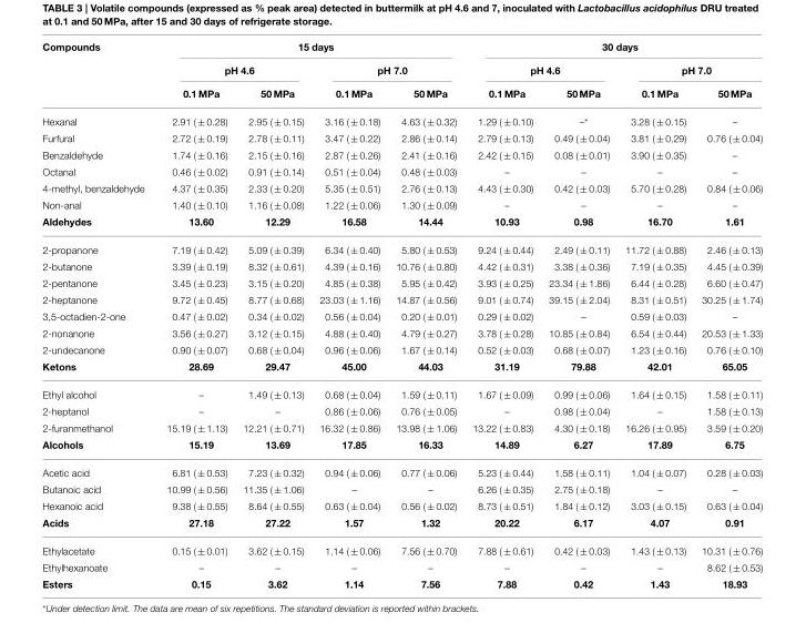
<table><thead><tr><td rowspan="3">Compounds</td><td colspan="4">15 days</td><td colspan="4">30 days</td></tr><tr><td colspan="2">pH 4.6</td><td colspan="2">pH 7.0</td><td colspan="2">pH 4.6</td><td colspan="2">pH 7.0</td></tr><tr><td>0.1 MPa</td><td>50 MPa</td><td>0.1 MPa</td><td>50 MPa</td><td>0.1 MPa</td><td>50 MPa</td><td>0.1 MPa</td><td>50 MPa</td></tr></thead><tbody><tr><td>Hexanal</td><td>2.91 ( ± 0.28)</td><td>2.95 ( ± 0.15)</td><td>3.16 ( ± 0.18)</td><td>4.63 ( ± 0.32)</td><td>1.29 ( ± 0.10)</td><td>–*</td><td>3.28 ( ± 0.15)</td><td>–</td></tr><tr><td>Furfural</td><td>2.72 ( ± 0.19)</td><td>2.78 ( ± 0.11)</td><td>3.47 ( ± 0.22)</td><td>2.86 ( ± 0.14)</td><td>2.79 ( ± 0.13)</td><td>0.49 ( ± 0.04)</td><td>3.81 ( ± 0.29)</td><td>0.76 ( ± 0.04)</td></tr><tr><td>Benzaldehyde</td><td>1.74 ( ± 0.16)</td><td>2.15 ( ± 0.16)</td><td>2.87 ( ± 0.26)</td><td>2.41 ( ± 0.16)</td><td>2.42 ( ± 0.15)</td><td>0.08 ( ± 0.01)</td><td>3.90 ( ± 0.35)</td><td>–</td></tr><tr><td>Octanal</td><td>0.46 ( ± 0.02)</td><td>0.91 ( ± 0.14)</td><td>0.51 ( ± 0.04)</td><td>0.48 ( ± 0.03)</td><td>–</td><td>–</td><td>–</td><td>–</td></tr><tr><td>4-methyl, benzaldehyde</td><td>4.37 ( ± 0.35)</td><td>2.33 ( ± 0.20)</td><td>5.35 ( ± 0.51)</td><td>2.76 ( ± 0.13)</td><td>4.43 ( ± 0.30)</td><td>0.42 ( ± 0.03)</td><td>5.70 ( ± 0.28)</td><td>0.84 ( ± 0.06)</td></tr><tr><td>Non-anal</td><td>1.40 ( ± 0.10)</td><td>1.16 ( ± 0.08)</td><td>1.22 ( ± 0.06)</td><td>1.30 ( ± 0.09)</td><td>–</td><td>–</td><td>–</td><td>–</td></tr><tr><td>Aldehydes</td><td>13.60</td><td>12.29</td><td>16.58</td><td>14.44</td><td>10.93</td><td>0.98</td><td>16.70</td><td>1.61</td></tr><tr><td>2-propanone</td><td>7.19 ( ± 0.42)</td><td>5.09 ( ± 0.39)</td><td>6.34 ( ± 0.40)</td><td>5.80 ( ± 0.53)</td><td>9.24 ( ± 0.44)</td><td>2.49 ( ± 0.11)</td><td>11.72 ( ± 0.88)</td><td>2.46 ( ± 0.13)</td></tr><tr><td>2-butanone</td><td>3.39 ( ± 0.19)</td><td>8.32 ( ± 0.61)</td><td>4.39 ( ± 0.16)</td><td>10.76 ( ± 0.80)</td><td>4.42 ( ± 0.31)</td><td>3.38 ( ± 0.36)</td><td>7.19 ( ± 0.35)</td><td>4.45 ( ± 0.39)</td></tr><tr><td>2-pentanone</td><td>3.45 ( ± 0.23)</td><td>3.15 ( ± 0.20)</td><td>4.85 ( ± 0.38)</td><td>5.95 ( ± 0.42)</td><td>3.93 ( ± 0.25)</td><td>23.34 ( ± 1.86)</td><td>6.44 ( ± 0.28)</td><td>6.60 ( ± 0.47)</td></tr><tr><td>2-heptanone</td><td>9.72 ( ± 0.45)</td><td>8.77 ( ± 0.68)</td><td>23.03 ( ± 1.16)</td><td>14.87 ( ± 0.56)</td><td>9.01 ( ± 0.74)</td><td>39.15 ( ± 2.04)</td><td>8.31 ( ± 0.51)</td><td>30.25 ( ± 1.74)</td></tr><tr><td>3,5-octadien-2-one</td><td>0.47 ( ± 0.02)</td><td>0.34 ( ± 0.02)</td><td>0.56 ( ± 0.04)</td><td>0.20 ( ± 0.01)</td><td>0.29 ( ± 0.02)</td><td>–</td><td>0.59 ( ± 0.03)</td><td>–</td></tr><tr><td>2-nonanone</td><td>3.56 ( ± 0.27)</td><td>3.12 ( ± 0.15)</td><td>4.88 ( ± 0.40)</td><td>4.79 ( ± 0.27)</td><td>3.78 ( ± 0.28)</td><td>10.85 ( ± 0.84)</td><td>6.54 ( ± 0.44)</td><td>20.53 ( ± 1.33)</td></tr><tr><td>2-undecanone</td><td>0.90 ( ± 0.07)</td><td>0.68 ( ± 0.04)</td><td>0.96 ( ± 0.06)</td><td>1.67 ( ± 0.14)</td><td>0.52 ( ± 0.03)</td><td>0.68 ( ± 0.07)</td><td>1.23 ( ± 0.16)</td><td>0.76 ( ± 0.10)</td></tr><tr><td>Ketons</td><td>28.69</td><td>29.47</td><td>45.00</td><td>44.03</td><td>31.19</td><td>79.88</td><td>42.01</td><td>65.05</td></tr><tr><td>Ethyl alcohol</td><td>–</td><td>1.49 ( ± 0.13)</td><td>0.68 ( ± 0.04)</td><td>1.59 ( ± 0.11)</td><td>1.67 ( ± 0.09)</td><td>0.99 ( ± 0.06)</td><td>1.64 ( ± 0.15)</td><td>1.58 ( ± 0.11)</td></tr><tr><td>2-heptanol</td><td>–</td><td>–</td><td>0.86 ( ± 0.06)</td><td>0.76 ( ± 0.05)</td><td>–</td><td>0.98 ( ± 0.04)</td><td>–</td><td>1.58 ( ± 0.13)</td></tr><tr><td>2-furanmethanol</td><td>15.19 ( ± 1.13)</td><td>12.21 ( ± 0.71)</td><td>16.32 ( ± 0.86)</td><td>13.98 ( ± 1.06)</td><td>13.22 ( ± 0.83)</td><td>4.30 ( ± 0.18)</td><td>16.26 ( ± 0.95)</td><td>3.59 ( ± 0.20)</td></tr><tr><td>Alcohols</td><td>15.19</td><td>13.69</td><td>17.85</td><td>16.33</td><td>14.89</td><td>6.27</td><td>17.89</td><td>6.75</td></tr><tr><td>Acetic acid</td><td>6.81 ( ± 0.53)</td><td>7.23 ( ± 0.32)</td><td>0.94 ( ± 0.06)</td><td>0.77 ( ± 0.06)</td><td>5.23 ( ± 0.44)</td><td>1.58 ( ± 0.11)</td><td>1.04 ( ± 0.07)</td><td>0.28 ( ± 0.03)</td></tr><tr><td>Butanoic acid</td><td>10.99 ( ± 0.56)</td><td>11.35 ( ± 1.06)</td><td>–</td><td>–</td><td>6.26 ( ± 0.35)</td><td>2.75 ( ± 0.18)</td><td>–</td><td>–</td></tr><tr><td>Hexanoic acid</td><td>9.38 ( ± 0.55)</td><td>8.64 ( ± 0.55)</td><td>0.63 ( ± 0.04)</td><td>0.56 ( ± 0.02)</td><td>8.73 ( ± 0.51)</td><td>1.84 ( ± 0.12)</td><td>3.03 ( ± 0.15)</td><td>0.63 ( ± 0.04)</td></tr><tr><td>Acids</td><td>27.18</td><td>27.22</td><td>1.57</td><td>1.32</td><td>20.22</td><td>6.17</td><td>4.07</td><td>0.91</td></tr><tr><td>Ethylacetate</td><td>0.15 ( ± 0.01)</td><td>3.62 ( ± 0.15)</td><td>1.14 ( ± 0.06)</td><td>7.56 ( ± 0.70)</td><td>7.88 ( ± 0.61)</td><td>0.42 ( ± 0.03)</td><td>1.43 ( ± 0.13)</td><td>10.31 ( ± 0.76)</td></tr><tr><td>Ethylhexanoate</td><td>–</td><td>–</td><td>–</td><td>–</td><td>–</td><td>–</td><td>–</td><td>8.62 ( ± 0.53)</td></tr><tr><td>Esters</td><td>0.15</td><td>3.62</td><td>1.14</td><td>7.56</td><td>7.88</td><td>0.42</td><td>1.43</td><td>18.93</td></tr></tbody></table>